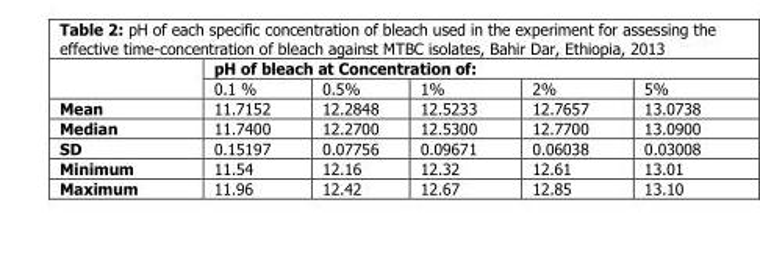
<table><thead><tr><td rowspan="2"></td><td colspan="5">pH of bleach at Concentration of:</td></tr><tr><td>0.1 %</td><td>0.5%</td><td>1%</td><td>2%</td><td>5%</td></tr></thead><tbody><tr><td>Mean</td><td>11.7152</td><td>12.2848</td><td>12.5233</td><td>12.7657</td><td>13.0738</td></tr><tr><td>Median</td><td>11.7400</td><td>12.2700</td><td>12.5300</td><td>12.7700</td><td>13.0900</td></tr><tr><td>SD</td><td>0.15197</td><td>0.07756</td><td>0.09671</td><td>0.06038</td><td>0.03008</td></tr><tr><td>Minimum</td><td>11.54</td><td>12.16</td><td>12.32</td><td>12.61</td><td>13.01</td></tr><tr><td>Maximum</td><td>11.96</td><td>12.42</td><td>12.67</td><td>12.85</td><td>13.10</td></tr></tbody></table>